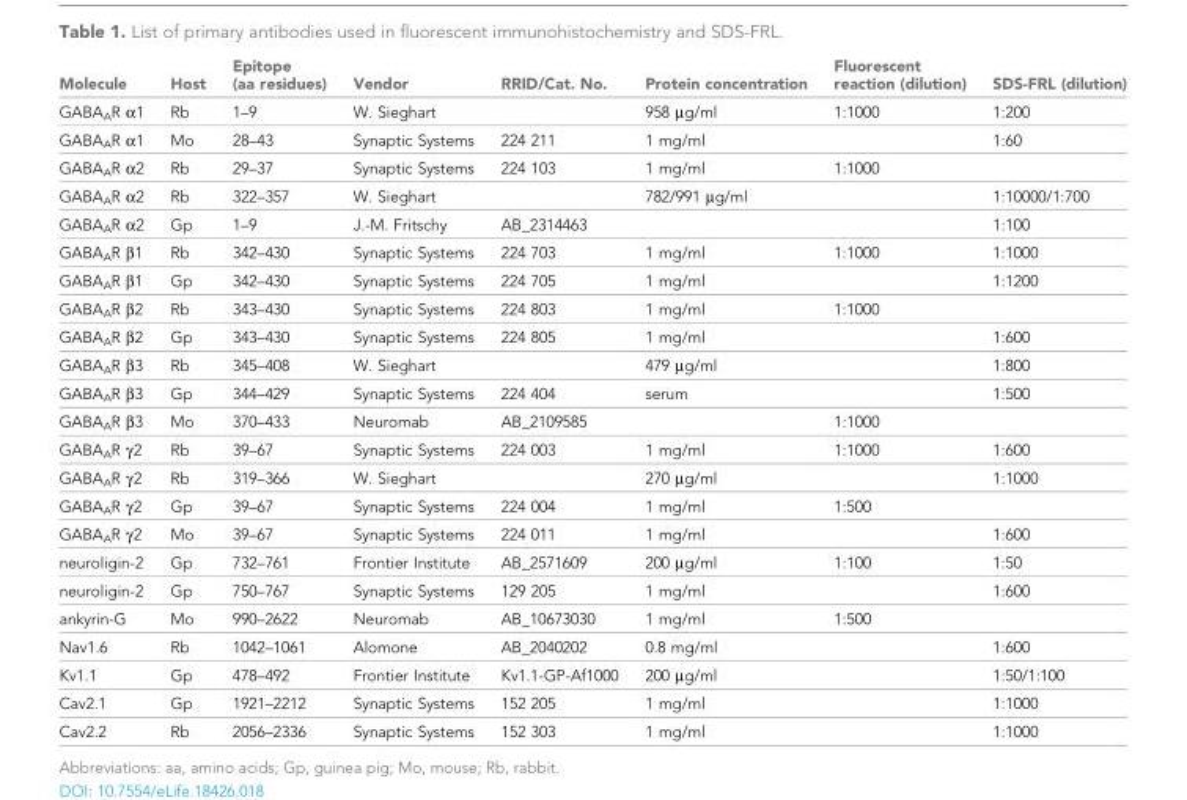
<table><thead><tr><td>Molecule</td><td>Host</td><td>Epitope (aa residues)</td><td>Vendor</td><td>RRID/Cat. No.</td><td>Protein concentration</td><td>Fluorescent reaction (dilution)</td><td>SDS-FRL (dilution)</td></tr></thead><tbody><tr><td>GABA<sub>A</sub>R α1</td><td>Rb</td><td>1–9</td><td>W. Sieghart</td><td></td><td>958 µg/ml</td><td>1:1000</td><td>1:200</td></tr><tr><td>GABA<sub>A</sub>R α1</td><td>Mo</td><td>28–43</td><td>Synaptic Systems</td><td>224 211</td><td>1 mg/ml</td><td></td><td>1:60</td></tr><tr><td>GABA<sub>A</sub>R α2</td><td>Rb</td><td>29–37</td><td>Synaptic Systems</td><td>224 103</td><td>1 mg/ml</td><td>1:1000</td><td></td></tr><tr><td>GABA<sub>A</sub>R α2</td><td>Rb</td><td>322–357</td><td>W. Sieghart</td><td></td><td>782/991 µg/ml</td><td></td><td>1:10000/1:700</td></tr><tr><td>GABA<sub>A</sub>R α2</td><td>Gp</td><td>1–9</td><td>J.-M. Fritschy</td><td>AB_2314463</td><td></td><td></td><td>1:100</td></tr><tr><td>GABA<sub>A</sub>R β1</td><td>Rb</td><td>342–430</td><td>Synaptic Systems</td><td>224 703</td><td>1 mg/ml</td><td>1:1000</td><td>1:1000</td></tr><tr><td>GABA<sub>A</sub>R β1</td><td>Gp</td><td>342–430</td><td>Synaptic Systems</td><td>224 705</td><td>1 mg/ml</td><td></td><td>1:1200</td></tr><tr><td>GABA<sub>A</sub>R β2</td><td>Rb</td><td>343–430</td><td>Synaptic Systems</td><td>224 803</td><td>1 mg/ml</td><td>1:1000</td><td></td></tr><tr><td>GABA<sub>A</sub>R β2</td><td>Gp</td><td>343–430</td><td>Synaptic Systems</td><td>224 805</td><td>1 mg/ml</td><td></td><td>1:600</td></tr><tr><td>GABA<sub>A</sub>R β3</td><td>Rb</td><td>345–408</td><td>W. Sieghart</td><td></td><td>479 µg/ml</td><td></td><td>1:800</td></tr><tr><td>GABA<sub>A</sub>R β3</td><td>Gp</td><td>344–429</td><td>Synaptic Systems</td><td>224 404</td><td>serum</td><td></td><td>1:500</td></tr><tr><td>GABA<sub>A</sub>R β3</td><td>Mo</td><td>370–433</td><td>Neuromab</td><td>AB_2109585</td><td></td><td>1:1000</td><td></td></tr><tr><td>GABA<sub>A</sub>R γ2</td><td>Rb</td><td>39–67</td><td>Synaptic Systems</td><td>224 003</td><td>1 mg/ml</td><td>1:1000</td><td>1:600</td></tr><tr><td>GABA<sub>A</sub>R γ2</td><td>Rb</td><td>319–366</td><td>W. Sieghart</td><td></td><td>270 µg/ml</td><td></td><td>1:1000</td></tr><tr><td>GABA<sub>A</sub>R γ2</td><td>Gp</td><td>39–67</td><td>Synaptic Systems</td><td>224 004</td><td>1 mg/ml</td><td>1:500</td><td></td></tr><tr><td>GABA<sub>A</sub>R γ2</td><td>Mo</td><td>39–67</td><td>Synaptic Systems</td><td>224 011</td><td>1 mg/ml</td><td></td><td>1:600</td></tr><tr><td>neuroligin-2</td><td>Gp</td><td>732–761</td><td>Frontier Institute</td><td>AB_2571609</td><td>200 µg/ml</td><td>1:100</td><td>1:50</td></tr><tr><td>neuroligin-2</td><td>Gp</td><td>750–767</td><td>Synaptic Systems</td><td>129 205</td><td>1 mg/ml</td><td></td><td>1:600</td></tr><tr><td>ankyrin-G</td><td>Mo</td><td>990–2622</td><td>Neuromab</td><td>AB_10673030</td><td>1 mg/ml</td><td>1:500</td><td></td></tr><tr><td>Nav1.6</td><td>Rb</td><td>1042–1061</td><td>Alomone</td><td>AB_2040202</td><td>0.8 mg/ml</td><td></td><td>1:600</td></tr><tr><td>Kv1.1</td><td>Gp</td><td>478–492</td><td>Frontier Institute</td><td>Kv1.1-GP-Af1000</td><td>200 µg/ml</td><td></td><td>1:50/1:100</td></tr><tr><td>Cav2.1</td><td>Gp</td><td>1921–2212</td><td>Synaptic Systems</td><td>152 205</td><td>1 mg/ml</td><td></td><td>1:1000</td></tr><tr><td>Cav2.2</td><td>Rb</td><td>2056–2336</td><td>Synaptic Systems</td><td>152 303</td><td>1 mg/ml</td><td></td><td>1:1000</td></tr></tbody></table>